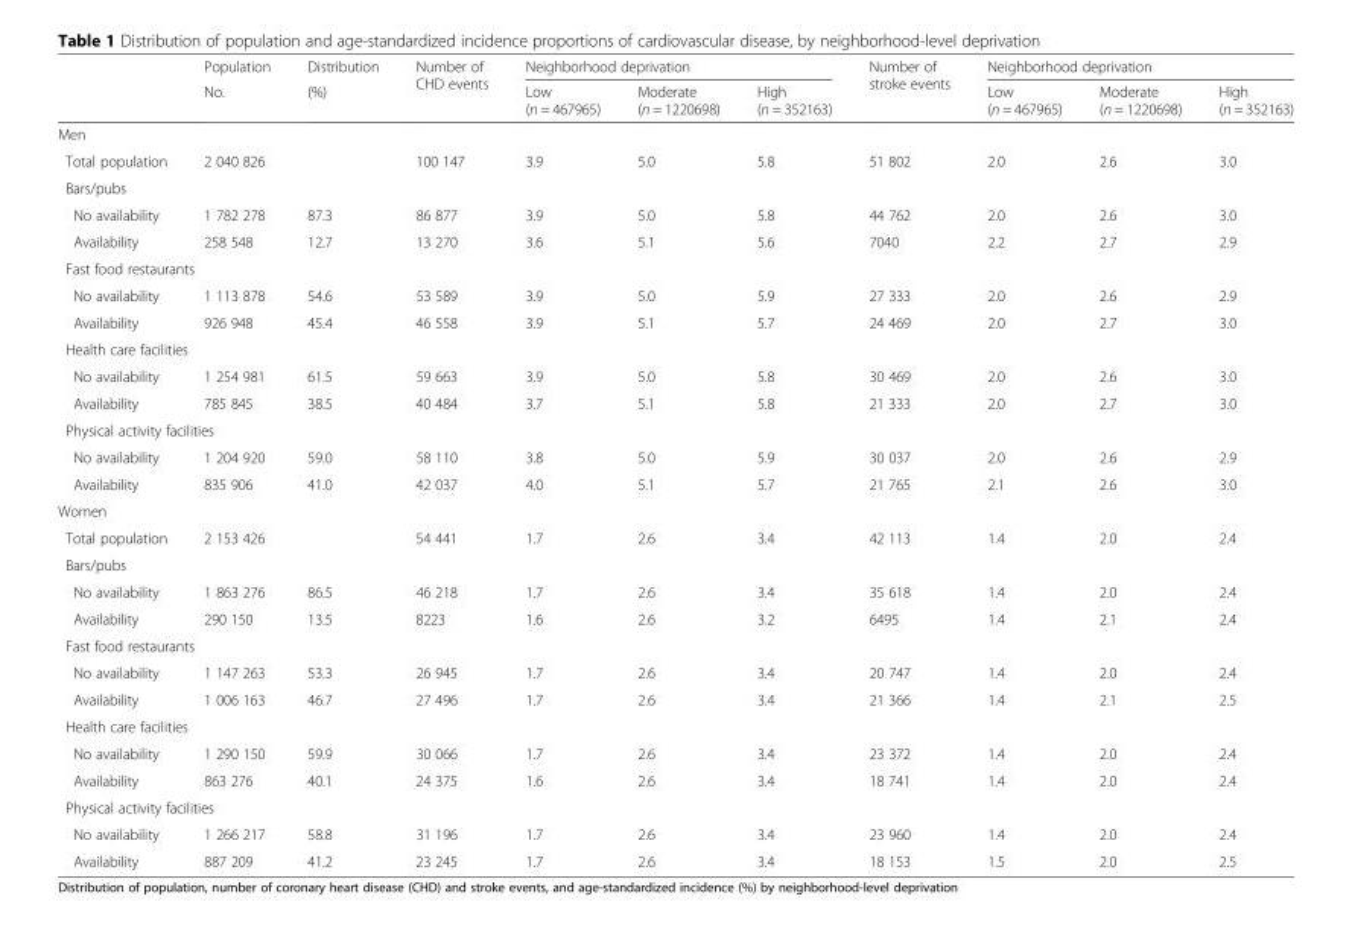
<table><thead><tr><td rowspan="2"></td><td rowspan="2">Population No.</td><td rowspan="2">Distribution (%)</td><td rowspan="2">Number of CHD events</td><td colspan="3">Neighborhood deprivation</td><td rowspan="2">Number of stroke events</td><td colspan="3">Neighborhood deprivation</td></tr><tr><td>Low (n = 467965)</td><td>Moderate (n = 1220698)</td><td>High (n = 352163)</td><td>Low (n = 467965)</td><td>Moderate (n = 1220698)</td><td>High (n = 352163)</td></tr></thead><tbody><tr><td colspan="11">Men</td></tr><tr><td>Total population</td><td>2 040 826</td><td></td><td>100 147</td><td>3.9</td><td>5.0</td><td>5.8</td><td>51 802</td><td>2.0</td><td>2.6</td><td>3.0</td></tr><tr><td colspan="11">Bars/pubs</td></tr><tr><td>No availability</td><td>1 782 278</td><td>87.3</td><td>86 877</td><td>3.9</td><td>5.0</td><td>5.8</td><td>44 762</td><td>2.0</td><td>2.6</td><td>3.0</td></tr><tr><td>Availability</td><td>258 548</td><td>12.7</td><td>13 270</td><td>3.6</td><td>5.1</td><td>5.6</td><td>7040</td><td>2.2</td><td>2.7</td><td>2.9</td></tr><tr><td colspan="11">Fast food restaurants</td></tr><tr><td>No availability</td><td>1 113 878</td><td>54.6</td><td>53 589</td><td>3.9</td><td>5.0</td><td>5.9</td><td>27 333</td><td>2.0</td><td>2.6</td><td>2.9</td></tr><tr><td>Availability</td><td>926 948</td><td>45.4</td><td>46 558</td><td>3.9</td><td>5.1</td><td>5.7</td><td>24 469</td><td>2.0</td><td>2.7</td><td>3.0</td></tr><tr><td colspan="11">Health care facilities</td></tr><tr><td>No availability</td><td>1 254 981</td><td>61.5</td><td>59 663</td><td>3.9</td><td>5.0</td><td>5.8</td><td>30 469</td><td>2.0</td><td>2.6</td><td>3.0</td></tr><tr><td>Availability</td><td>785 845</td><td>38.5</td><td>40 484</td><td>3.7</td><td>5.1</td><td>5.8</td><td>21 333</td><td>2.0</td><td>2.7</td><td>3.0</td></tr><tr><td colspan="11">Physical activity facilities</td></tr><tr><td>No availability</td><td>1 204 920</td><td>59.0</td><td>58 110</td><td>3.8</td><td>5.0</td><td>5.9</td><td>30 037</td><td>2.0</td><td>2.6</td><td>2.9</td></tr><tr><td>Availability</td><td>835 906</td><td>41.0</td><td>42 037</td><td>4.0</td><td>5.1</td><td>5.7</td><td>21 765</td><td>2.1</td><td>2.6</td><td>3.0</td></tr><tr><td colspan="11">Women</td></tr><tr><td>Total population</td><td>2 153 426</td><td></td><td>54 441</td><td>1.7</td><td>2.6</td><td>3.4</td><td>42 113</td><td>1.4</td><td>2.0</td><td>2.4</td></tr><tr><td colspan="11">Bars/pubs</td></tr><tr><td>No availability</td><td>1 863 276</td><td>86.5</td><td>46 218</td><td>1.7</td><td>2.6</td><td>3.4</td><td>35 618</td><td>1.4</td><td>2.0</td><td>2.4</td></tr><tr><td>Availability</td><td>290 150</td><td>13.5</td><td>8223</td><td>1.6</td><td>2.6</td><td>3.2</td><td>6495</td><td>1.4</td><td>2.1</td><td>2.4</td></tr><tr><td colspan="11">Fast food restaurants</td></tr><tr><td>No availability</td><td>1 147 263</td><td>53.3</td><td>26 945</td><td>1.7</td><td>2.6</td><td>3.4</td><td>20 747</td><td>1.4</td><td>2.0</td><td>2.4</td></tr><tr><td>Availability</td><td>1 006 163</td><td>46.7</td><td>27 496</td><td>1.7</td><td>2.6</td><td>3.4</td><td>21 366</td><td>1.4</td><td>2.1</td><td>2.5</td></tr><tr><td colspan="11">Health care facilities</td></tr><tr><td>No availability</td><td>1 290 150</td><td>59.9</td><td>30 066</td><td>1.7</td><td>2.6</td><td>3.4</td><td>23 372</td><td>1.4</td><td>2.0</td><td>2.4</td></tr><tr><td>Availability</td><td>863 276</td><td>40.1</td><td>24 375</td><td>1.6</td><td>2.6</td><td>3.4</td><td>18 741</td><td>1.4</td><td>2.0</td><td>2.4</td></tr><tr><td colspan="11">Physical activity facilities</td></tr><tr><td>No availability</td><td>1 266 217</td><td>58.8</td><td>31 196</td><td>1.7</td><td>2.6</td><td>3.4</td><td>23 960</td><td>1.4</td><td>2.0</td><td>2.4</td></tr><tr><td>Availability</td><td>887 209</td><td>41.2</td><td>23 245</td><td>1.7</td><td>2.6</td><td>3.4</td><td>18 153</td><td>1.5</td><td>2.0</td><td>2.5</td></tr></tbody></table>